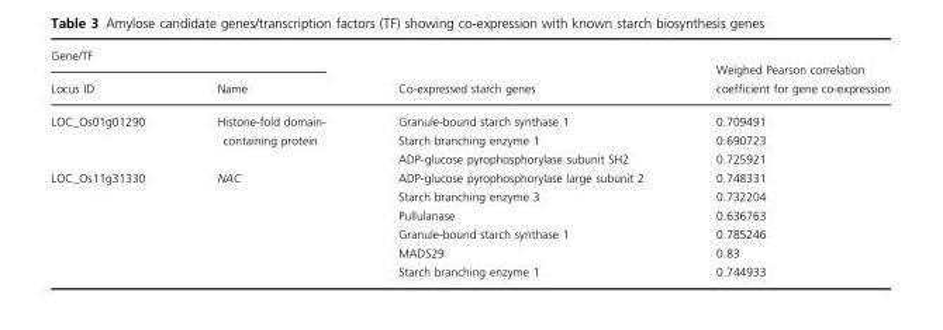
<table><thead><tr><td colspan="2">Gene/TF</td><td rowspan="2">Co-expressed starch genes</td><td rowspan="2">Weighed Pearson correlation coefficient for gene co-expression</td></tr><tr><td>Locus ID</td><td>Name</td></tr></thead><tbody><tr><td rowspan="3">LOC_Os01g01290</td><td rowspan="3">Histone-fold domain- containing protein</td><td>Granule-bound starch synthase 1</td><td>0.709491</td></tr><tr><td>Starch branching enzyme 1</td><td>0.690723</td></tr><tr><td>ADP-glucose pyrophosphorylase subunit SH2</td><td>0.725921</td></tr><tr><td rowspan="6">LOC_Os11g31330</td><td rowspan="6">NAC</td><td>ADP-glucose pyrophosphorylase large subunit 2</td><td>0.748331</td></tr><tr><td>Starch branching enzyme 3</td><td>0.732204</td></tr><tr><td>Pullulanase</td><td>0.636763</td></tr><tr><td>Granule-bound starch synthase 1</td><td>0.785246</td></tr><tr><td>MADS29</td><td>0.83</td></tr><tr><td>Starch branching enzyme 1</td><td>0.744933</td></tr></tbody></table>